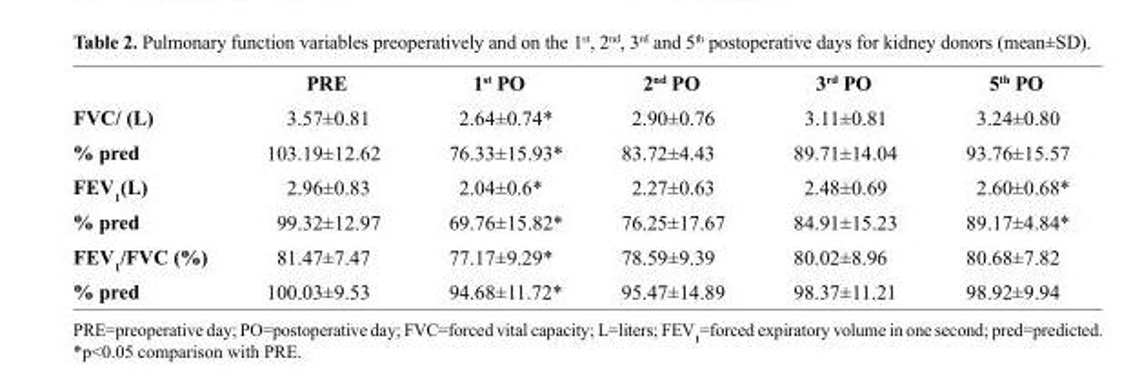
<table><thead><tr><td></td><td>PRE</td><td>1<sup>st</sup> PO</td><td>2<sup>nd</sup> PO</td><td>3<sup>rd</sup> PO</td><td>5<sup>th</sup> PO</td></tr></thead><tbody><tr><td>FVC/ (L)</td><td>3.57±0.81</td><td>2.64±0.74*</td><td>2.90±0.76</td><td>3.11±0.81</td><td>3.24±0.80</td></tr><tr><td>% pred</td><td>103.19±12.62</td><td>76.33±15.93*</td><td>83.72±4.43</td><td>89.71±14.04</td><td>93.76±15.57</td></tr><tr><td>FEV<sub>1</sub>(L)</td><td>2.96±0.83</td><td>2.04±0.6*</td><td>2.27±0.63</td><td>2.48±0.69</td><td>2.60±0.68*</td></tr><tr><td>% pred</td><td>99.32±12.97</td><td>69.76±15.82*</td><td>76.25±17.67</td><td>84.91±15.23</td><td>89.17±4.84*</td></tr><tr><td>FEV<sub>1</sub>/FVC (%)</td><td>81.47±7.47</td><td>77.17±9.29*</td><td>78.59±9.39</td><td>80.02±8.96</td><td>80.68±7.82</td></tr><tr><td>% pred</td><td>100.03±9.53</td><td>94.68±11.72*</td><td>95.47±14.89</td><td>98.37±11.21</td><td>98.92±9.94</td></tr></tbody></table>